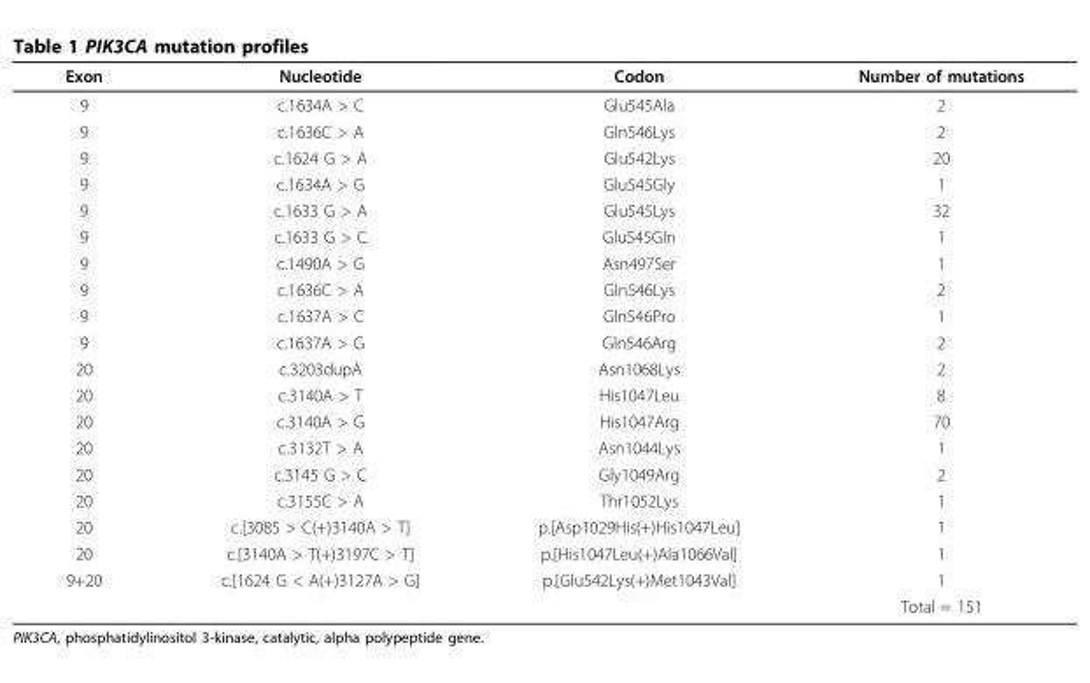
<table><thead><tr><td>Exon</td><td>Nucleotide</td><td>Codon</td><td>Number of mutations</td></tr></thead><tbody><tr><td>9</td><td>c.1634A &gt; C</td><td>Glu545Ala</td><td>2</td></tr><tr><td>9</td><td>c.1636C &gt; A</td><td>Gln546Lys</td><td>2</td></tr><tr><td>9</td><td>c.1624 G &gt; A</td><td>Glu542Lys</td><td>20</td></tr><tr><td>9</td><td>c.1634A &gt; G</td><td>Glu545Gly</td><td>1</td></tr><tr><td>9</td><td>c.1633 G &gt; A</td><td>Glu545Lys</td><td>32</td></tr><tr><td>9</td><td>c.1633 G &gt; C</td><td>Glu545Gln</td><td>1</td></tr><tr><td>9</td><td>c.1490A &gt; G</td><td>Asn497Ser</td><td>1</td></tr><tr><td>9</td><td>c.1636C &gt; A</td><td>Gln546Lys</td><td>2</td></tr><tr><td>9</td><td>c.1637A &gt; C</td><td>Gln546Pro</td><td>1</td></tr><tr><td>9</td><td>c.1637A &gt; G</td><td>Gln546Arg</td><td>2</td></tr><tr><td>20</td><td>c.3203dupA</td><td>Asn1068Lys</td><td>2</td></tr><tr><td>20</td><td>c.3140A &gt; T</td><td>His1047Leu</td><td>8</td></tr><tr><td>20</td><td>c.3140A &gt; G</td><td>His1047Arg</td><td>70</td></tr><tr><td>20</td><td>c.3132T &gt; A</td><td>Asn1044Lys</td><td>1</td></tr><tr><td>20</td><td>c.3145 G &gt; C</td><td>Gly1049Arg</td><td>2</td></tr><tr><td>20</td><td>c.3155C &gt; A</td><td>Thr1052Lys</td><td>1</td></tr><tr><td>20</td><td>c.[3085 &gt; C(+)3140A &gt; T]</td><td>p.[Asp1029His(+)His1047Leu]</td><td>1</td></tr><tr><td>20</td><td>c.[3140A &gt; T(+)3197C &gt; T]</td><td>p.[His1047Leu(+)Ala1066Val]</td><td>1</td></tr><tr><td rowspan="2">9+20</td><td>c.[1624 G &lt; A(+)3127A &gt; G]</td><td>p.[Glu542Lys(+)Met1043Val]</td><td>1</td></tr><tr><td></td><td></td><td>Total = 151</td></tr></tbody></table>